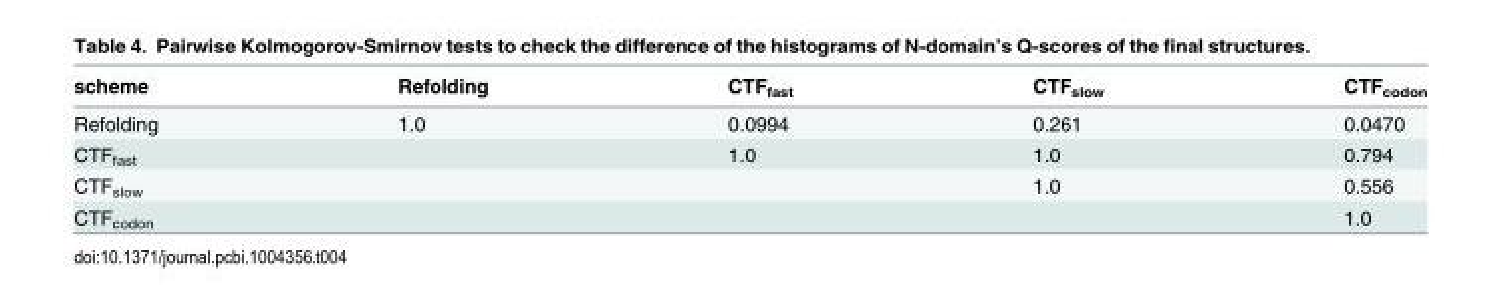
<table><thead><tr><td>scheme</td><td>Refolding</td><td>CTF<sub>fast</sub></td><td>CTF<sub>slow</sub></td><td>CTF<sub>codon</sub></td></tr></thead><tbody><tr><td>Refolding</td><td>1.0</td><td>0.0994</td><td>0.261</td><td>0.0470</td></tr><tr><td>CTF<sub>fast</sub></td><td></td><td>1.0</td><td>1.0</td><td>0.794</td></tr><tr><td>CTF<sub>slow</sub></td><td></td><td></td><td>1.0</td><td>0.556</td></tr><tr><td>CTF<sub>codon</sub></td><td></td><td></td><td></td><td>1.0</td></tr></tbody></table>